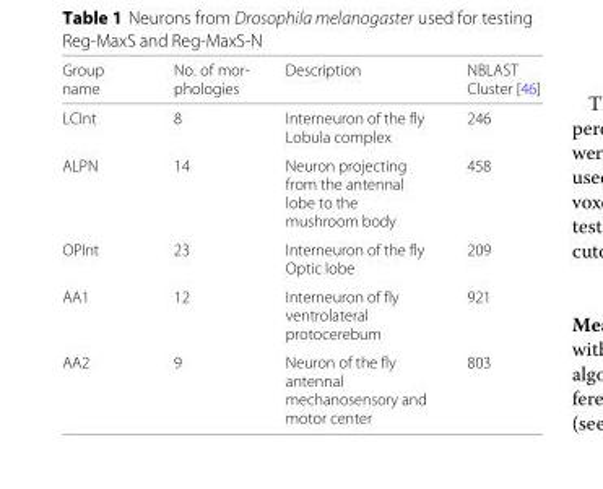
<table><thead><tr><td>Group name</td><td>No. of mor- phologies</td><td>Description</td><td>NBLAST Cluster [46]</td></tr></thead><tbody><tr><td>LCInt</td><td>8</td><td>Interneuron of the fly Lobula complex</td><td>246</td></tr><tr><td>ALPN</td><td>14</td><td>Neuron projecting from the antennal lobe to the mushroom body</td><td>458</td></tr><tr><td>OPInt</td><td>23</td><td>Interneuron of the fly Optic lobe</td><td>209</td></tr><tr><td>AA1</td><td>12</td><td>Interneuron of fly ventrolateral protocerebum</td><td>921</td></tr><tr><td>AA2</td><td>9</td><td>Neuron of the fly antennal mechanosensory and motor center</td><td>803</td></tr></tbody></table>